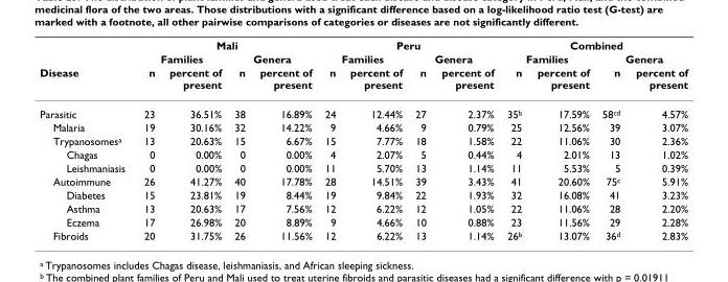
<table><thead><tr><td rowspan="3">Disease</td><td colspan="4">Mali</td><td colspan="4">Peru</td><td colspan="4">Combined</td></tr><tr><td colspan="2">Families</td><td colspan="2">Genera</td><td colspan="2">Families</td><td colspan="2">Genera</td><td colspan="2">Families</td><td colspan="2">Genera</td></tr><tr><td>n</td><td>percent of present</td><td>n</td><td>percent of present</td><td>n</td><td>percent of present</td><td>n</td><td>percent of present</td><td>n</td><td>percent of present</td><td>n</td><td>percent of present</td></tr></thead><tbody><tr><td>Parasitic</td><td>23</td><td>36.51%</td><td>38</td><td>16.89%</td><td>24</td><td>12.44%</td><td>27</td><td>2.37%</td><td>35<sup>b</sup></td><td>17.59%</td><td>58<sup>cd</sup></td><td>4.57%</td></tr><tr><td>Malaria</td><td>19</td><td>30.16%</td><td>32</td><td>14.22%</td><td>9</td><td>4.66%</td><td>9</td><td>0.79%</td><td>25</td><td>12.56%</td><td>39</td><td>3.07%</td></tr><tr><td>Trypanosomes<sup>a</sup></td><td>13</td><td>20.63%</td><td>15</td><td>6.67%</td><td>15</td><td>7.77%</td><td>18</td><td>1.58%</td><td>22</td><td>11.06%</td><td>30</td><td>2.36%</td></tr><tr><td>Chagas</td><td>0</td><td>0.00%</td><td>0</td><td>0.00%</td><td>4</td><td>2.07%</td><td>5</td><td>0.44%</td><td>4</td><td>2.01%</td><td>13</td><td>1.02%</td></tr><tr><td>Leishmaniasis</td><td>0</td><td>0.00%</td><td>0</td><td>0.00%</td><td>11</td><td>5.70%</td><td>13</td><td>1.14%</td><td>11</td><td>5.53%</td><td>5</td><td>0.39%</td></tr><tr><td>Autoimmune</td><td>26</td><td>41.27%</td><td>40</td><td>17.78%</td><td>28</td><td>14.51%</td><td>39</td><td>3.43%</td><td>41</td><td>20.60%</td><td>75<sup>c</sup></td><td>5.91%</td></tr><tr><td>Diabetes</td><td>15</td><td>23.81%</td><td>19</td><td>8.44%</td><td>19</td><td>9.84%</td><td>22</td><td>1.93%</td><td>32</td><td>16.08%</td><td>41</td><td>3.23%</td></tr><tr><td>Asthma</td><td>13</td><td>20.63%</td><td>17</td><td>7.56%</td><td>12</td><td>6.22%</td><td>12</td><td>1.05%</td><td>22</td><td>11.06%</td><td>28</td><td>2.20%</td></tr><tr><td>Eczema</td><td>17</td><td>26.98%</td><td>20</td><td>8.89%</td><td>9</td><td>4.66%</td><td>10</td><td>0.88%</td><td>23</td><td>11.56%</td><td>29</td><td>2.28%</td></tr><tr><td>Fibroids</td><td>20</td><td>31.75%</td><td>26</td><td>11.56%</td><td>12</td><td>6.22%</td><td>13</td><td>1.14%</td><td>26<sup>b</sup></td><td>13.07%</td><td>36<sup>d</sup></td><td>2.83%</td></tr></tbody></table>